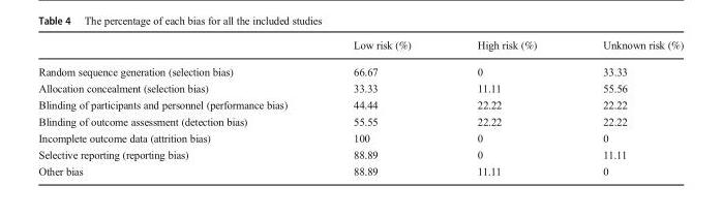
<table><thead><tr><td></td><td>Low risk (%)</td><td>High risk (%)</td><td>Unknown risk (%)</td></tr></thead><tbody><tr><td>Random sequence generation (selection bias)</td><td>66.67</td><td>0</td><td>33.33</td></tr><tr><td>Allocation concealment (selection bias)</td><td>33.33</td><td>11.11</td><td>55.56</td></tr><tr><td>Blinding of participants and personnel (performance bias)</td><td>44.44</td><td>22.22</td><td>22.22</td></tr><tr><td>Blinding of outcome assessment (detection bias)</td><td>55.55</td><td>22.22</td><td>22.22</td></tr><tr><td>Incomplete outcome data (attrition bias)</td><td>100</td><td>0</td><td>0</td></tr><tr><td>Selective reporting (reporting bias)</td><td>88.89</td><td>0</td><td>11.11</td></tr><tr><td>Other bias</td><td>88.89</td><td>11.11</td><td>0</td></tr></tbody></table>